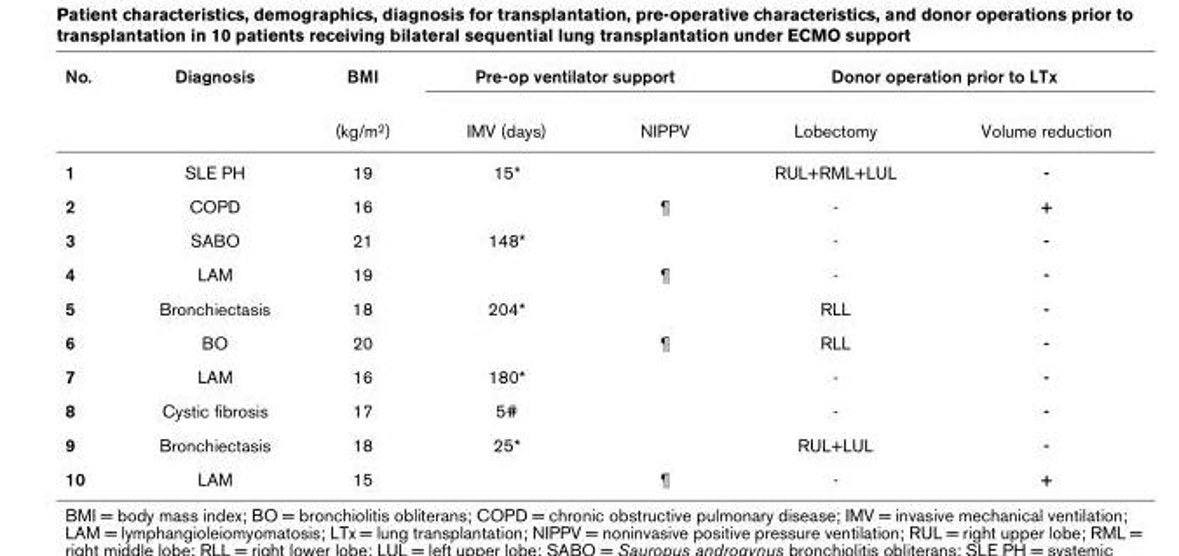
<table><thead><tr><td rowspan="2">No.</td><td rowspan="2">Diagnosis</td><td rowspan="2">BMI (kg/m<sup>2</sup>)</td><td colspan="2">Pre-op ventilator support</td><td colspan="2">Donor operation prior to LTx</td></tr><tr><td>IMV (days)</td><td>NIPPV</td><td>Lobectomy</td><td>Volume reduction</td></tr></thead><tbody><tr><td>1</td><td>SLE PH</td><td>19</td><td>15*</td><td></td><td>RUL+RML+LUL</td><td>-</td></tr><tr><td>2</td><td>COPD</td><td>16</td><td></td><td>¶</td><td>-</td><td>+</td></tr><tr><td>3</td><td>SABO</td><td>21</td><td>148*</td><td></td><td>-</td><td>-</td></tr><tr><td>4</td><td>LAM</td><td>19</td><td></td><td>¶</td><td>-</td><td>-</td></tr><tr><td>5</td><td>Bronchiectasis</td><td>18</td><td>204*</td><td></td><td>RLL</td><td>-</td></tr><tr><td>6</td><td>BO</td><td>20</td><td></td><td>¶</td><td>RLL</td><td>-</td></tr><tr><td>7</td><td>LAM</td><td>16</td><td>180*</td><td></td><td>-</td><td>-</td></tr><tr><td>8</td><td>Cystic fibrosis</td><td>17</td><td>5#</td><td></td><td>-</td><td>-</td></tr><tr><td>9</td><td>Bronchiectasis</td><td>18</td><td>25*</td><td></td><td>RUL+LUL</td><td>-</td></tr><tr><td>10</td><td>LAM</td><td>15</td><td></td><td>¶</td><td>-</td><td>+</td></tr></tbody></table>